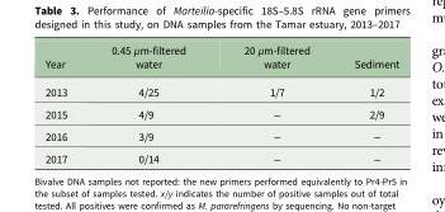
<table><thead><tr><td>Year</td><td>0.45 µm-filtered water</td><td>20 µm-filtered water</td><td>Sediment</td></tr></thead><tbody><tr><td>2013</td><td>4/25</td><td>1/7</td><td>1/2</td></tr><tr><td>2015</td><td>4/9</td><td>−</td><td>2/9</td></tr><tr><td>2016</td><td>3/9</td><td>−</td><td>−</td></tr><tr><td>2017</td><td>0/14</td><td>−</td><td>−</td></tr></tbody></table>